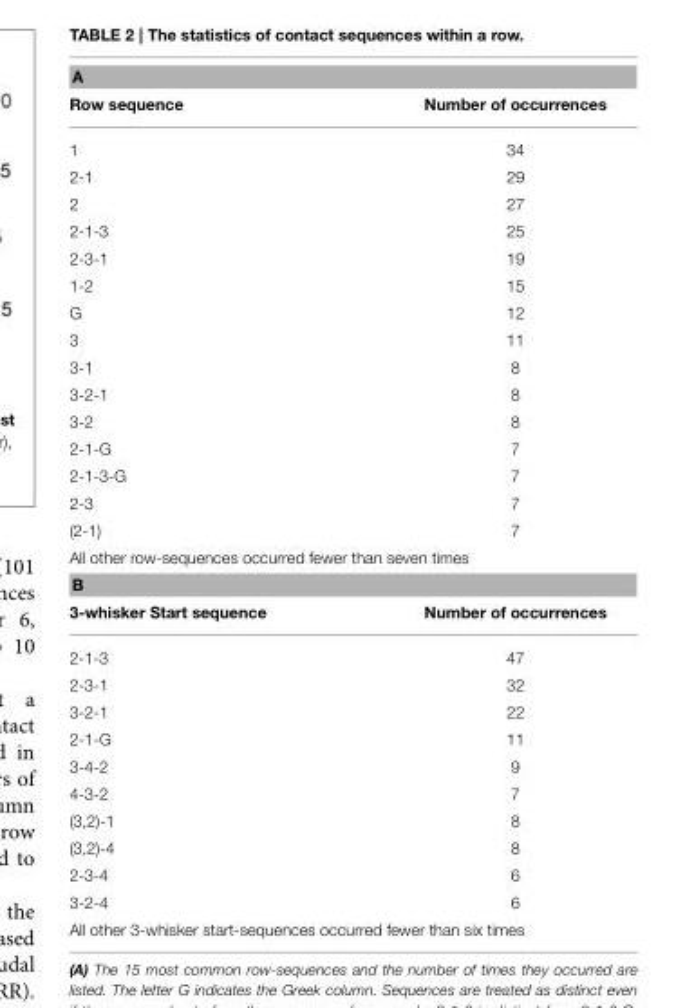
<table><thead><tr><td colspan="2">A</td></tr><tr><td>Row sequence</td><td>Number of occurrences</td></tr></thead><tbody><tr><td>1</td><td>34</td></tr><tr><td>2-1</td><td>29</td></tr><tr><td>2</td><td>27</td></tr><tr><td>2-1-3</td><td>25</td></tr><tr><td>2-3-1</td><td>19</td></tr><tr><td>1-2</td><td>15</td></tr><tr><td>G</td><td>12</td></tr><tr><td>3</td><td>11</td></tr><tr><td>3-1</td><td>8</td></tr><tr><td>3-2-1</td><td>8</td></tr><tr><td>3-2</td><td>8</td></tr><tr><td>2-1-G</td><td>7</td></tr><tr><td>2-1-3-G</td><td>7</td></tr><tr><td>2-3</td><td>7</td></tr><tr><td>(2-1)</td><td>7</td></tr><tr><td colspan="2">All other row-sequences occurred fewer than seven times</td></tr><tr><td colspan="2">B</td></tr><tr><td>3-whisker Start sequence</td><td>Number of occurrences</td></tr><tr><td>2-1-3</td><td>47</td></tr><tr><td>2-3-1</td><td>32</td></tr><tr><td>3-2-1</td><td>22</td></tr><tr><td>2-1-G</td><td>11</td></tr><tr><td>3-4-2</td><td>9</td></tr><tr><td>4-3-2</td><td>7</td></tr><tr><td>(3,2)-1</td><td>8</td></tr><tr><td>(3,2)-4</td><td>8</td></tr><tr><td>2-3-4</td><td>6</td></tr><tr><td>3-2-4</td><td>6</td></tr><tr><td colspan="2">All other 3-whisker start-sequences occurred fewer than six times</td></tr></tbody></table>